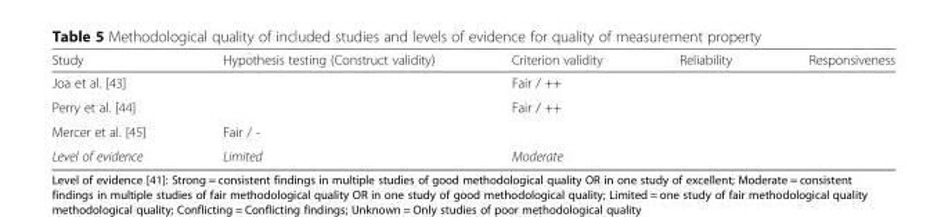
<table><thead><tr><td>Study</td><td>Hypothesis testing (Construct validity)</td><td>Criterion validity</td><td>Reliability</td><td>Responsiveness</td></tr></thead><tbody><tr><td>Joa et al. [43]</td><td></td><td>Fair / ++</td><td></td><td></td></tr><tr><td>Perry et al. [44]</td><td></td><td>Fair / ++</td><td></td><td></td></tr><tr><td>Mercer et al. [45]</td><td>Fair / -</td><td></td><td></td><td></td></tr><tr><td>Level of evidence</td><td>Limited</td><td>Moderate</td><td></td><td></td></tr></tbody></table>